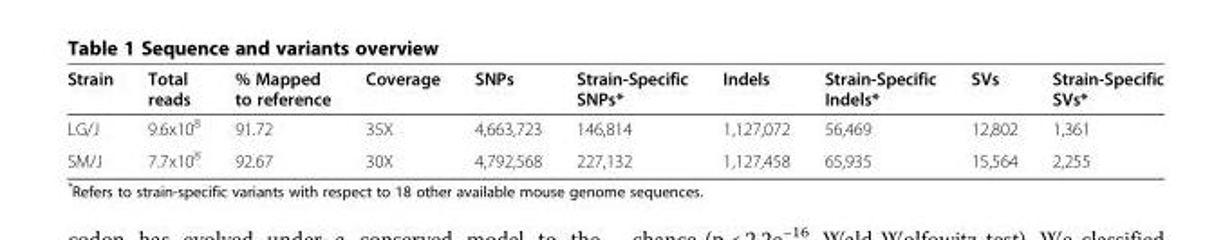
<table><thead><tr><td>Strain</td><td>Total reads</td><td>% Mapped to reference</td><td>Coverage</td><td>SNPs</td><td>Strain-Specific SNPs*</td><td>Indels</td><td>Strain-Specific Indels*</td><td>SVs</td><td>Strain-Specific SVs*</td></tr></thead><tbody><tr><td>LG/J</td><td>9.6x10<sup>8</sup></td><td>91.72</td><td>35X</td><td>4,663,723</td><td>146,814</td><td>1,127,072</td><td>56,469</td><td>12,802</td><td>1,361</td></tr><tr><td>SM/J</td><td>7.7x10<sup>8</sup></td><td>92.67</td><td>30X</td><td>4,792,568</td><td>227,132</td><td>1,127,458</td><td>65,935</td><td>15,564</td><td>2,255</td></tr></tbody></table>